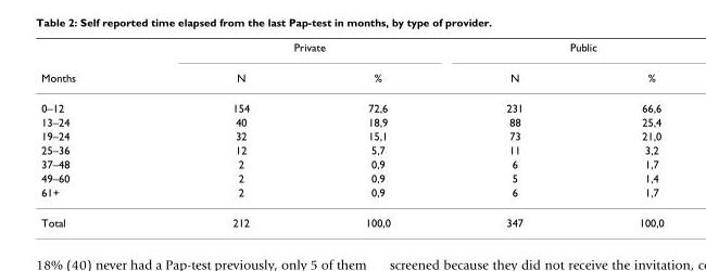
<table><thead><tr><td rowspan="2">Months</td><td colspan="2">Private</td><td colspan="2">Public</td></tr><tr><td>N</td><td>%</td><td>N</td><td>%</td></tr></thead><tbody><tr><td>0–12</td><td>154</td><td>72,6</td><td>231</td><td>66,6</td></tr><tr><td>13–24</td><td>40</td><td>18,9</td><td>88</td><td>25,4</td></tr><tr><td>19–24</td><td>32</td><td>15,1</td><td>73</td><td>21,0</td></tr><tr><td>25–36</td><td>12</td><td>5,7</td><td>11</td><td>3,2</td></tr><tr><td>37–48</td><td>2</td><td>0,9</td><td>6</td><td>1,7</td></tr><tr><td>49–60</td><td>2</td><td>0,9</td><td>5</td><td>1,4</td></tr><tr><td>61+</td><td>2</td><td>0,9</td><td>6</td><td>1,7</td></tr><tr><td>Total</td><td>212</td><td>100,0</td><td>347</td><td>100,0</td></tr></tbody></table>